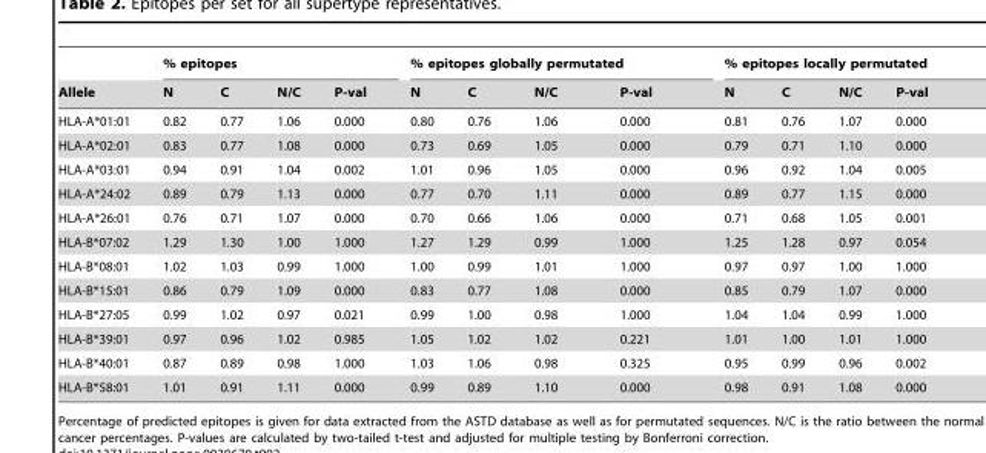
<table><thead><tr><td rowspan="2">Allele</td><td colspan="4">% epitopes</td><td colspan="4">% epitopes globally permutated</td><td colspan="4">% epitopes locally permutated</td></tr><tr><td>N</td><td>C</td><td>N/C</td><td>P-val</td><td>N</td><td>C</td><td>N/C</td><td>P-val</td><td>N</td><td>C</td><td>N/C</td><td>P-val</td></tr></thead><tbody><tr><td>HLA-A*01:01</td><td>0.82</td><td>0.77</td><td>1.06</td><td>0.000</td><td>0.80</td><td>0.76</td><td>1.06</td><td>0.000</td><td>0.81</td><td>0.76</td><td>1.07</td><td>0.000</td></tr><tr><td>HLA-A*02:01</td><td>0.83</td><td>0.77</td><td>1.08</td><td>0.000</td><td>0.73</td><td>0.69</td><td>1.05</td><td>0.000</td><td>0.79</td><td>0.71</td><td>1.10</td><td>0.000</td></tr><tr><td>HLA-A*03:01</td><td>0.94</td><td>0.91</td><td>1.04</td><td>0.002</td><td>1.01</td><td>0.96</td><td>1.05</td><td>0.000</td><td>0.96</td><td>0.92</td><td>1.04</td><td>0.005</td></tr><tr><td>HLA-A*24:02</td><td>0.89</td><td>0.79</td><td>1.13</td><td>0.000</td><td>0.77</td><td>0.70</td><td>1.11</td><td>0.000</td><td>0.89</td><td>0.77</td><td>1.15</td><td>0.000</td></tr><tr><td>HLA-A*26:01</td><td>0.76</td><td>0.71</td><td>1.07</td><td>0.000</td><td>0.70</td><td>0.66</td><td>1.06</td><td>0.000</td><td>0.71</td><td>0.68</td><td>1.05</td><td>0.001</td></tr><tr><td>HLA-B*07:02</td><td>1.29</td><td>1.30</td><td>1.00</td><td>1.000</td><td>1.27</td><td>1.29</td><td>0.99</td><td>1.000</td><td>1.25</td><td>1.28</td><td>0.97</td><td>0.054</td></tr><tr><td>HLA-B*08:01</td><td>1.02</td><td>1.03</td><td>0.99</td><td>1.000</td><td>1.00</td><td>0.99</td><td>1.01</td><td>1.000</td><td>0.97</td><td>0.97</td><td>1.00</td><td>1.000</td></tr><tr><td>HLA-B*15:01</td><td>0.86</td><td>0.79</td><td>1.09</td><td>0.000</td><td>0.83</td><td>0.77</td><td>1.08</td><td>0.000</td><td>0.85</td><td>0.79</td><td>1.07</td><td>0.000</td></tr><tr><td>HLA-B*27:05</td><td>0.99</td><td>1.02</td><td>0.97</td><td>0.021</td><td>0.99</td><td>1.00</td><td>0.98</td><td>1.000</td><td>1.04</td><td>1.04</td><td>0.99</td><td>1.000</td></tr><tr><td>HLA-B*39:01</td><td>0.97</td><td>0.96</td><td>1.02</td><td>0.985</td><td>1.05</td><td>1.02</td><td>1.02</td><td>0.221</td><td>1.01</td><td>1.00</td><td>1.01</td><td>1.000</td></tr><tr><td>HLA-B*40:01</td><td>0.87</td><td>0.89</td><td>0.98</td><td>1.000</td><td>1.03</td><td>1.06</td><td>0.98</td><td>0.325</td><td>0.95</td><td>0.99</td><td>0.96</td><td>0.002</td></tr><tr><td>HLA-B*58:01</td><td>1.01</td><td>0.91</td><td>1.11</td><td>0.000</td><td>0.99</td><td>0.89</td><td>1.10</td><td>0.000</td><td>0.98</td><td>0.91</td><td>1.08</td><td>0.000</td></tr></tbody></table>